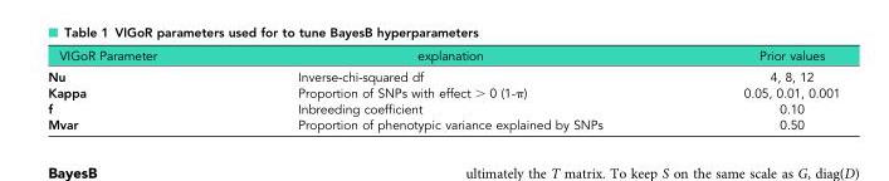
<table><thead><tr><td>VIGoR Parameter</td><td>explanation</td><td>Prior values</td></tr></thead><tbody><tr><td>Nu</td><td>Inverse-chi-squared df</td><td>4, 8, 12</td></tr><tr><td>Kappa</td><td>Proportion of SNPs with effect &gt; 0 (1-π)</td><td>0.05, 0.01, 0.001</td></tr><tr><td>f</td><td>Inbreeding coefficient</td><td>0.10</td></tr><tr><td>Mvar</td><td>Proportion of phenotypic variance explained by SNPs</td><td>0.50</td></tr></tbody></table>